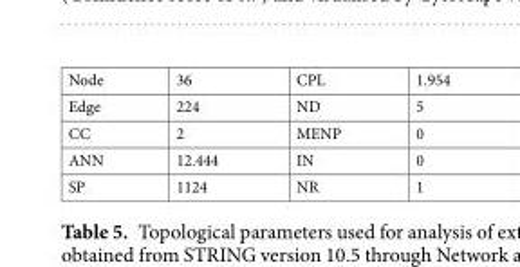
<table><tbody><tr><td>Node</td><td>36</td><td>CPL</td><td>1.954</td></tr><tr><td>Edge</td><td>224</td><td>ND</td><td>5</td></tr><tr><td>CC</td><td>2</td><td>MENP</td><td>0</td></tr><tr><td>ANN</td><td>12.444</td><td>IN</td><td>0</td></tr><tr><td>SP</td><td>1124</td><td>NR</td><td>1</td></tr></tbody></table>